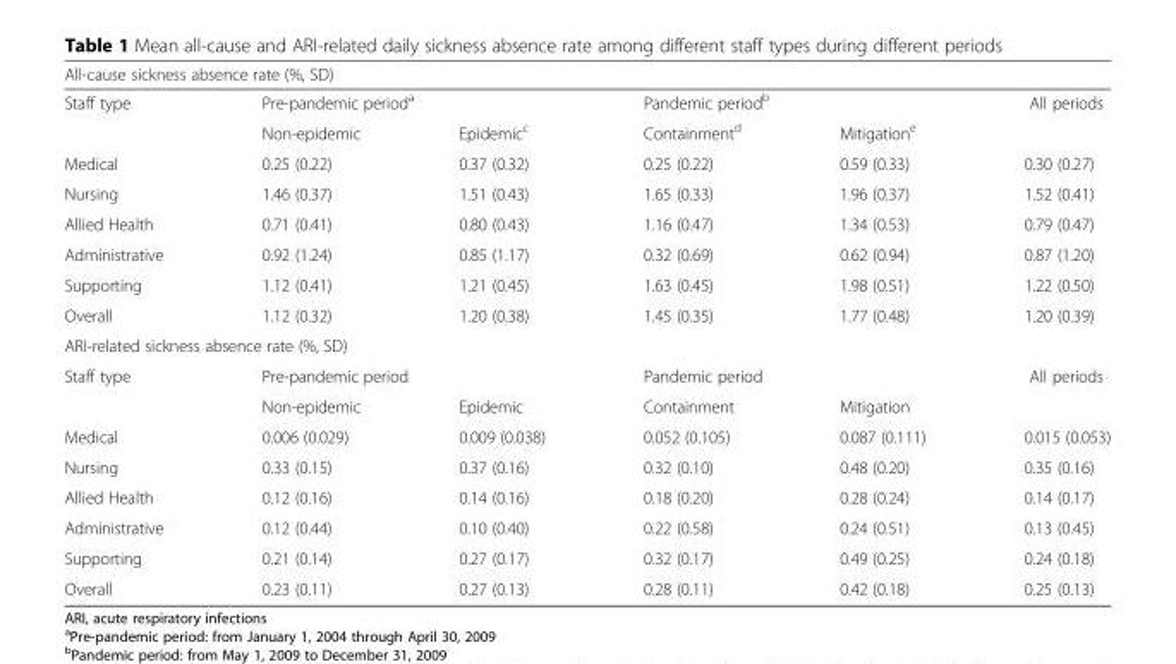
<table><thead><tr><td colspan="6">All-cause sickness absence rate (%, SD)</td></tr><tr><td rowspan="2">Staff type</td><td colspan="2">Pre-pandemic period<sup>a</sup></td><td colspan="2">Pandemic period<sup>b</sup></td><td rowspan="2">All periods</td></tr><tr><td>Non-epidemic</td><td>Epidemic<sup>c</sup></td><td>Containment<sup>d</sup></td><td>Mitigation<sup>e</sup></td></tr></thead><tbody><tr><td>Medical</td><td>0.25 (0.22)</td><td>0.37 (0.32)</td><td>0.25 (0.22)</td><td>0.59 (0.33)</td><td>0.30 (0.27)</td></tr><tr><td>Nursing</td><td>1.46 (0.37)</td><td>1.51 (0.43)</td><td>1.65 (0.33)</td><td>1.96 (0.37)</td><td>1.52 (0.41)</td></tr><tr><td>Allied Health</td><td>0.71 (0.41)</td><td>0.80 (0.43)</td><td>1.16 (0.47)</td><td>1.34 (0.53)</td><td>0.79 (0.47)</td></tr><tr><td>Administrative</td><td>0.92 (1.24)</td><td>0.85 (1.17)</td><td>0.32 (0.69)</td><td>0.62 (0.94)</td><td>0.87 (1.20)</td></tr><tr><td>Supporting</td><td>1.12 (0.41)</td><td>1.21 (0.45)</td><td>1.63 (0.45)</td><td>1.98 (0.51)</td><td>1.22 (0.50)</td></tr><tr><td>Overall</td><td>1.12 (0.32)</td><td>1.20 (0.38)</td><td>1.45 (0.35)</td><td>1.77 (0.48)</td><td>1.20 (0.39)</td></tr><tr><td colspan="6">ARI-related sickness absence rate (%, SD)</td></tr><tr><td rowspan="2">Staff type</td><td colspan="2">Pre-pandemic period</td><td colspan="2">Pandemic period</td><td>All periods</td></tr><tr><td>Non-epidemic</td><td>Epidemic</td><td>Containment</td><td>Mitigation</td><td></td></tr><tr><td>Medical</td><td>0.006 (0.029)</td><td>0.009 (0.038)</td><td>0.052 (0.105)</td><td>0.087 (0.111)</td><td>0.015 (0.053)</td></tr><tr><td>Nursing</td><td>0.33 (0.15)</td><td>0.37 (0.16)</td><td>0.32 (0.10)</td><td>0.48 (0.20)</td><td>0.35 (0.16)</td></tr><tr><td>Allied Health</td><td>0.12 (0.16)</td><td>0.14 (0.16)</td><td>0.18 (0.20)</td><td>0.28 (0.24)</td><td>0.14 (0.17)</td></tr><tr><td>Administrative</td><td>0.12 (0.44)</td><td>0.10 (0.40)</td><td>0.22 (0.58)</td><td>0.24 (0.51)</td><td>0.13 (0.45)</td></tr><tr><td>Supporting</td><td>0.21 (0.14)</td><td>0.27 (0.17)</td><td>0.32 (0.17)</td><td>0.49 (0.25)</td><td>0.24 (0.18)</td></tr><tr><td>Overall</td><td>0.23 (0.11)</td><td>0.27 (0.13)</td><td>0.28 (0.11)</td><td>0.42 (0.18)</td><td>0.25 (0.13)</td></tr></tbody></table>